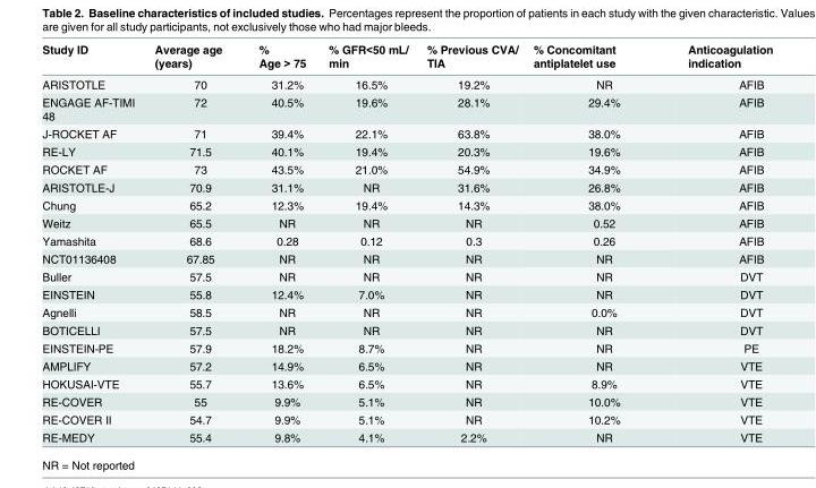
<table><thead><tr><td>Study ID</td><td>Average age (years)</td><td>% Age &gt; 75</td><td>% GFR&lt;50 mL/ min</td><td>% Previous CVA/ TIA</td><td>% Concomitant antiplatelet use</td><td>Anticoagulation indication</td></tr></thead><tbody><tr><td>ARISTOTLE</td><td>70</td><td>31.2%</td><td>16.5%</td><td>19.2%</td><td>NR</td><td>AFIB</td></tr><tr><td>ENGAGE AF-TIMI 48</td><td>72</td><td>40.5%</td><td>19.6%</td><td>28.1%</td><td>29.4%</td><td>AFIB</td></tr><tr><td>J-ROCKET AF</td><td>71</td><td>39.4%</td><td>22.1%</td><td>63.8%</td><td>38.0%</td><td>AFIB</td></tr><tr><td>RE-LY</td><td>71.5</td><td>40.1%</td><td>19.4%</td><td>20.3%</td><td>19.6%</td><td>AFIB</td></tr><tr><td>ROCKET AF</td><td>73</td><td>43.5%</td><td>21.0%</td><td>54.9%</td><td>34.9%</td><td>AFIB</td></tr><tr><td>ARISTOTLE-J</td><td>70.9</td><td>31.1%</td><td>NR</td><td>31.6%</td><td>26.8%</td><td>AFIB</td></tr><tr><td>Chung</td><td>65.2</td><td>12.3%</td><td>19.4%</td><td>14.3%</td><td>38.0%</td><td>AFIB</td></tr><tr><td>Weitz</td><td>65.5</td><td>NR</td><td>NR</td><td>NR</td><td>0.52</td><td>AFIB</td></tr><tr><td>Yamashita</td><td>68.6</td><td>0.28</td><td>0.12</td><td>0.3</td><td>0.26</td><td>AFIB</td></tr><tr><td>NCT01136408</td><td>67.85</td><td>NR</td><td>NR</td><td>NR</td><td>NR</td><td>AFIB</td></tr><tr><td>Buller</td><td>57.5</td><td>NR</td><td>NR</td><td>NR</td><td>NR</td><td>DVT</td></tr><tr><td>EINSTEIN</td><td>55.8</td><td>12.4%</td><td>7.0%</td><td>NR</td><td>NR</td><td>DVT</td></tr><tr><td>Agnelli</td><td>58.5</td><td>NR</td><td>NR</td><td>NR</td><td>0.0%</td><td>DVT</td></tr><tr><td>BOTICELLI</td><td>57.5</td><td>NR</td><td>NR</td><td>NR</td><td>NR</td><td>DVT</td></tr><tr><td>EINSTEIN-PE</td><td>57.9</td><td>18.2%</td><td>8.7%</td><td>NR</td><td>NR</td><td>PE</td></tr><tr><td>AMPLIFY</td><td>57.2</td><td>14.9%</td><td>6.5%</td><td>NR</td><td>NR</td><td>VTE</td></tr><tr><td>HOKUSAI-VTE</td><td>55.7</td><td>13.6%</td><td>6.5%</td><td>NR</td><td>8.9%</td><td>VTE</td></tr><tr><td>RE-COVER</td><td>55</td><td>9.9%</td><td>5.1%</td><td>NR</td><td>10.0%</td><td>VTE</td></tr><tr><td>RE-COVER II</td><td>54.7</td><td>9.9%</td><td>5.1%</td><td>NR</td><td>10.2%</td><td>VTE</td></tr><tr><td>RE-MEDY</td><td>55.4</td><td>9.8%</td><td>4.1%</td><td>2.2%</td><td>NR</td><td>VTE</td></tr></tbody></table>